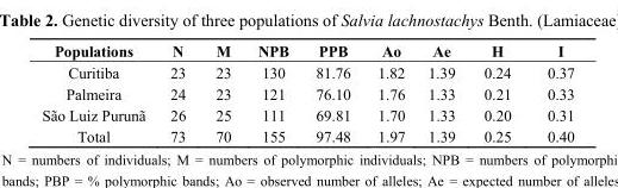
<table><thead><tr><td>Populations</td><td>N</td><td>M</td><td>NPB</td><td>PPB</td><td>Ao</td><td>Ae</td><td>H</td><td>I</td></tr></thead><tbody><tr><td>Curitiba</td><td>23</td><td>23</td><td>130</td><td>81.76</td><td>1.82</td><td>1.39</td><td>0.24</td><td>0.37</td></tr><tr><td>Palmeira</td><td>24</td><td>23</td><td>121</td><td>76.10</td><td>1.76</td><td>1.33</td><td>0.21</td><td>0.33</td></tr><tr><td>São Luiz Purunã</td><td>26</td><td>25</td><td>111</td><td>69.81</td><td>1.70</td><td>1.33</td><td>0.20</td><td>0.31</td></tr><tr><td>Total</td><td>73</td><td>70</td><td>155</td><td>97.48</td><td>1.97</td><td>1.39</td><td>0.25</td><td>0.40</td></tr></tbody></table>